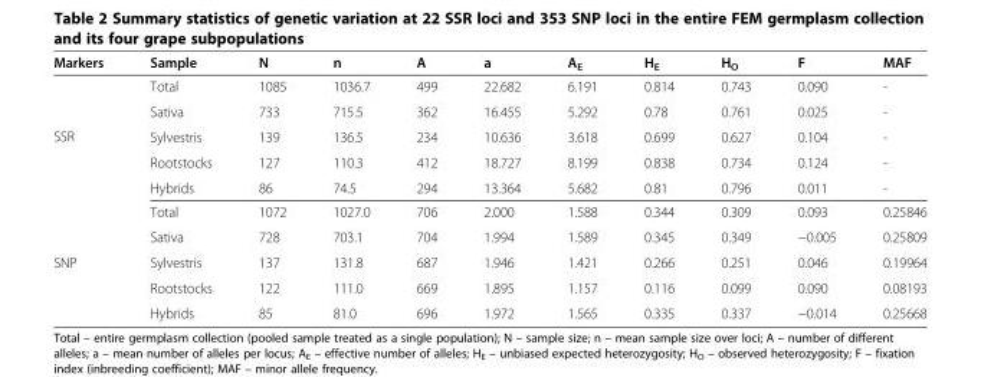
<table><thead><tr><td>Markers</td><td>Sample</td><td>N</td><td>n</td><td>A</td><td>a</td><td>A<sub>E</sub></td><td>H<sub>E</sub></td><td>H<sub>O</sub></td><td>F</td><td>MAF</td></tr></thead><tbody><tr><td rowspan="5">SSR</td><td>Total</td><td>1085</td><td>1036.7</td><td>499</td><td>22.682</td><td>6.191</td><td>0.814</td><td>0.743</td><td>0.090</td><td>-</td></tr><tr><td>Sativa</td><td>733</td><td>715.5</td><td>362</td><td>16.455</td><td>5.292</td><td>0.78</td><td>0.761</td><td>0.025</td><td>-</td></tr><tr><td>Sylvestris</td><td>139</td><td>136.5</td><td>234</td><td>10.636</td><td>3.618</td><td>0.699</td><td>0.627</td><td>0.104</td><td>-</td></tr><tr><td>Rootstocks</td><td>127</td><td>110.3</td><td>412</td><td>18.727</td><td>8.199</td><td>0.838</td><td>0.734</td><td>0.124</td><td>-</td></tr><tr><td>Hybrids</td><td>86</td><td>74.5</td><td>294</td><td>13.364</td><td>5.682</td><td>0.81</td><td>0.796</td><td>0.011</td><td>-</td></tr><tr><td rowspan="5">SNP</td><td>Total</td><td>1072</td><td>1027.0</td><td>706</td><td>2.000</td><td>1.588</td><td>0.344</td><td>0.309</td><td>0.093</td><td>0.25846</td></tr><tr><td>Sativa</td><td>728</td><td>703.1</td><td>704</td><td>1.994</td><td>1.589</td><td>0.345</td><td>0.349</td><td>−0.005</td><td>0.25809</td></tr><tr><td>Sylvestris</td><td>137</td><td>131.8</td><td>687</td><td>1.946</td><td>1.421</td><td>0.266</td><td>0.251</td><td>0.046</td><td>0.19964</td></tr><tr><td>Rootstocks</td><td>122</td><td>111.0</td><td>669</td><td>1.895</td><td>1.157</td><td>0.116</td><td>0.099</td><td>0.090</td><td>0.08193</td></tr><tr><td>Hybrids</td><td>85</td><td>81.0</td><td>696</td><td>1.972</td><td>1.565</td><td>0.335</td><td>0.337</td><td>−0.014</td><td>0.25668</td></tr></tbody></table>